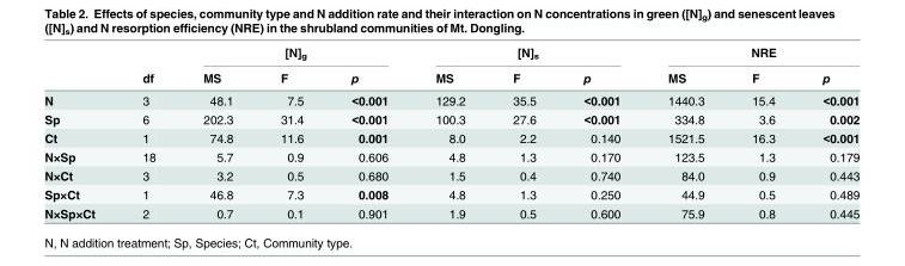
<table><thead><tr><td rowspan="2"></td><td rowspan="2">df</td><td colspan="3">[N]<sub>g</sub></td><td colspan="3">[N]<sub>s</sub></td><td colspan="3">NRE</td></tr><tr><td>MS</td><td>F</td><td>p</td><td>MS</td><td>F</td><td>p</td><td>MS</td><td>F</td><td>p</td></tr></thead><tbody><tr><td>N</td><td>3</td><td>48.1</td><td>7.5</td><td>&lt;0.001</td><td>129.2</td><td>35.5</td><td>&lt;0.001</td><td>1440.3</td><td>15.4</td><td>&lt;0.001</td></tr><tr><td>Sp</td><td>6</td><td>202.3</td><td>31.4</td><td>&lt;0.001</td><td>100.3</td><td>27.6</td><td>&lt;0.001</td><td>334.8</td><td>3.6</td><td>0.002</td></tr><tr><td>Ct</td><td>1</td><td>74.8</td><td>11.6</td><td>0.001</td><td>8.0</td><td>2.2</td><td>0.140</td><td>1521.5</td><td>16.3</td><td>&lt;0.001</td></tr><tr><td>N×Sp</td><td>18</td><td>5.7</td><td>0.9</td><td>0.606</td><td>4.8</td><td>1.3</td><td>0.170</td><td>123.5</td><td>1.3</td><td>0.179</td></tr><tr><td>N×Ct</td><td>3</td><td>3.2</td><td>0.5</td><td>0.680</td><td>1.5</td><td>0.4</td><td>0.740</td><td>84.0</td><td>0.9</td><td>0.443</td></tr><tr><td>Sp×Ct</td><td>1</td><td>46.8</td><td>7.3</td><td>0.008</td><td>4.8</td><td>1.3</td><td>0.250</td><td>44.9</td><td>0.5</td><td>0.489</td></tr><tr><td>N×Sp×Ct</td><td>2</td><td>0.7</td><td>0.1</td><td>0.901</td><td>1.9</td><td>0.5</td><td>0.600</td><td>75.9</td><td>0.8</td><td>0.445</td></tr></tbody></table>